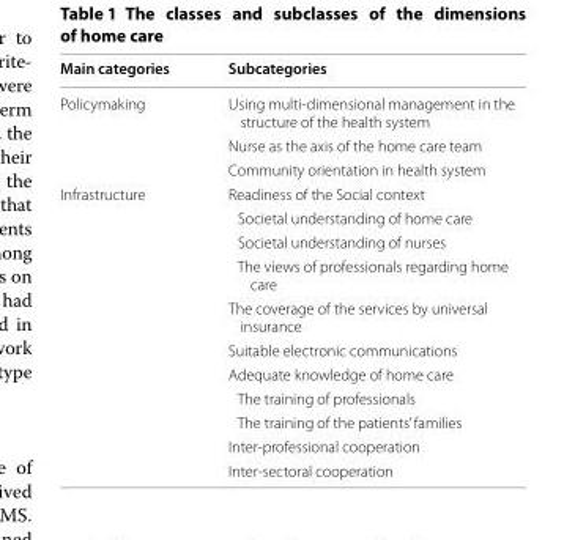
<table><thead><tr><td>Main categories</td><td>Subcategories</td></tr></thead><tbody><tr><td rowspan="3">Policymaking</td><td>Using multi-dimensional management in the structure of the health system</td></tr><tr><td>Nurse as the axis of the home care team</td></tr><tr><td>Community orientation in health system</td></tr><tr><td rowspan="11">Infrastructure</td><td>Readiness of the Social context</td></tr><tr><td>Societal understanding of home care</td></tr><tr><td>Societal understanding of nurses</td></tr><tr><td>The views of professionals regarding home care</td></tr><tr><td>The coverage of the services by universal insurance</td></tr><tr><td>Suitable electronic communications</td></tr><tr><td>Adequate knowledge of home care</td></tr><tr><td>The training of professionals</td></tr><tr><td>The training of the patients’ families</td></tr><tr><td>Inter-professional cooperation</td></tr><tr><td>Inter-sectoral cooperation</td></tr></tbody></table>